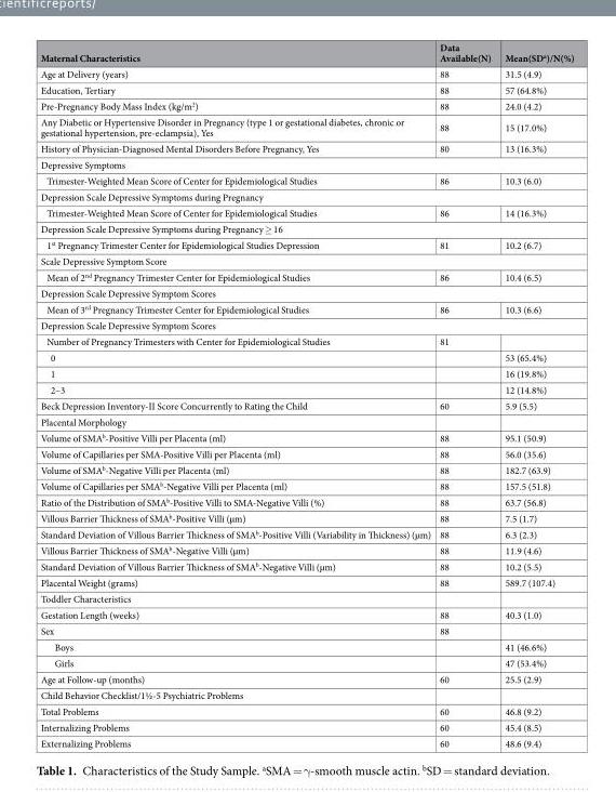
<table><thead><tr><td>Maternal Characteristics</td><td>Data Available(N)</td><td>Mean(SD<sup>a</sup>)/N(%)</td></tr></thead><tbody><tr><td>Age at Delivery (years)</td><td>88</td><td>31.5 (4.9)</td></tr><tr><td>Education, Tertiary</td><td>88</td><td>57 (64.8%)</td></tr><tr><td>Pre-Pregnancy Body Mass Index (kg/m<sup>2</sup>)</td><td>88</td><td>24.0 (4.2)</td></tr><tr><td>Any Diabetic or Hypertensive Disorder in Pregnancy (type 1 or gestational diabetes, chronic or gestational hypertension, pre-eclampsia), Yes</td><td>88</td><td>15 (17.0%)</td></tr><tr><td>History of Physician-Diagnosed Mental Disorders Before Pregnancy, Yes</td><td>80</td><td>13 (16.3%)</td></tr><tr><td colspan="3">Depressive Symptoms</td></tr><tr><td>Trimester-Weighted Mean Score of Center for Epidemiological Studies</td><td>86</td><td>10.3 (6.0)</td></tr><tr><td colspan="3">Depression Scale Depressive Symptoms during Pregnancy</td></tr><tr><td>Trimester-Weighted Mean Score of Center for Epidemiological Studies</td><td>86</td><td>14 (16.3%)</td></tr><tr><td colspan="3">Depression Scale Depressive Symptoms during Pregnancy ≥ 16</td></tr><tr><td>1<sup>st</sup> Pregnancy Trimester Center for Epidemiological Studies Depression</td><td>81</td><td>10.2 (6.7)</td></tr><tr><td colspan="3">Scale Depressive Symptom Score</td></tr><tr><td>Mean of 2<sup>nd</sup> Pregnancy Trimester Center for Epidemiological Studies</td><td>86</td><td>10.4 (6.5)</td></tr><tr><td colspan="3">Depression Scale Depressive Symptom Scores</td></tr><tr><td>Mean of 3<sup>rd</sup> Pregnancy Trimester Center for Epidemiological Studies</td><td>86</td><td>10.3 (6.6)</td></tr><tr><td colspan="3">Depression Scale Depressive Symptom Scores</td></tr><tr><td>Number of Pregnancy Trimesters with Center for Epidemiological Studies</td><td>81</td><td></td></tr><tr><td>0</td><td></td><td>53 (65.4%)</td></tr><tr><td>1</td><td></td><td>16 (19.8%)</td></tr><tr><td>2–3</td><td></td><td>12 (14.8%)</td></tr><tr><td>Beck Depression Inventory-II Score Concurrently to Rating the Child</td><td>60</td><td>5.9 (5.5)</td></tr><tr><td colspan="3">Placental Morphology</td></tr><tr><td>Volume of SMA<sup>b</sup>-Positive Villi per Placenta (ml)</td><td>88</td><td>95.1 (50.9)</td></tr><tr><td>Volume of Capillaries per SMA-Positive Villi per Placenta (ml)</td><td>88</td><td>56.0 (35.6)</td></tr><tr><td>Volume of SMA<sup>b</sup>-Negative Villi per Placenta (ml)</td><td>88</td><td>182.7 (63.9)</td></tr><tr><td>Volume of Capillaries per SMA<sup>b</sup>-Negative Villi per Placenta (ml)</td><td>88</td><td>157.5 (51.8)</td></tr><tr><td>Ratio of the Distribution of SMA<sup>b</sup>-Positive Villi to SMA-Negative Villi (%)</td><td>88</td><td>63.7 (56.8)</td></tr><tr><td>Villous Barrier Thickness of SMA<sup>b</sup>-Positive Villi (µm)</td><td>88</td><td>7.5 (1.7)</td></tr><tr><td>Standard Deviation of Villous Barrier Thickness of SMA<sup>b</sup>-Positive Villi (Variability in Thickness) (µm)</td><td>88</td><td>6.3 (2.3)</td></tr><tr><td>Villous Barrier Thickness of SMA<sup>b</sup>-Negative Villi (µm)</td><td>88</td><td>11.9 (4.6)</td></tr><tr><td>Standard Deviation of Villous Barrier Thickness of SMA<sup>b</sup>-Negative Villi (µm)</td><td>88</td><td>10.2 (5.5)</td></tr><tr><td>Placental Weight (grams)</td><td>88</td><td>589.7 (107.4)</td></tr><tr><td colspan="3">Toddler Characteristics</td></tr><tr><td>Gestation Length (weeks)</td><td>88</td><td>40.3 (1.0)</td></tr><tr><td>Sex</td><td>88</td><td></td></tr><tr><td>Boys</td><td></td><td>41 (46.6%)</td></tr><tr><td>Girls</td><td></td><td>47 (53.4%)</td></tr><tr><td>Age at Follow-up (months)</td><td>60</td><td>25.5 (2.9)</td></tr><tr><td colspan="3">Child Behavior Checklist/1½-5 Psychiatric Problems</td></tr><tr><td>Total Problems</td><td>60</td><td>46.8 (9.2)</td></tr><tr><td>Internalizing Problems</td><td>60</td><td>45.4 (8.5)</td></tr><tr><td>Externalizing Problems</td><td>60</td><td>48.6 (9.4)</td></tr></tbody></table>